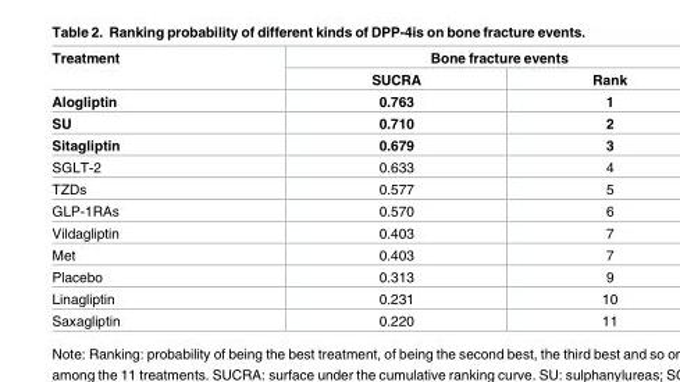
<table><thead><tr><td rowspan="2">Treatment</td><td colspan="2">Bone fracture events</td></tr><tr><td>SUCRA</td><td>Rank</td></tr></thead><tbody><tr><td>Alogliptin</td><td>0.763</td><td>1</td></tr><tr><td>SU</td><td>0.710</td><td>2</td></tr><tr><td>Sitagliptin</td><td>0.679</td><td>3</td></tr><tr><td>SGLT-2</td><td>0.633</td><td>4</td></tr><tr><td>TZDs</td><td>0.577</td><td>5</td></tr><tr><td>GLP-1RAs</td><td>0.570</td><td>6</td></tr><tr><td>Vildagliptin</td><td>0.403</td><td>7</td></tr><tr><td>Met</td><td>0.403</td><td>7</td></tr><tr><td>Placebo</td><td>0.313</td><td>9</td></tr><tr><td>Linagliptin</td><td>0.231</td><td>10</td></tr><tr><td>Saxagliptin</td><td>0.220</td><td>11</td></tr></tbody></table>